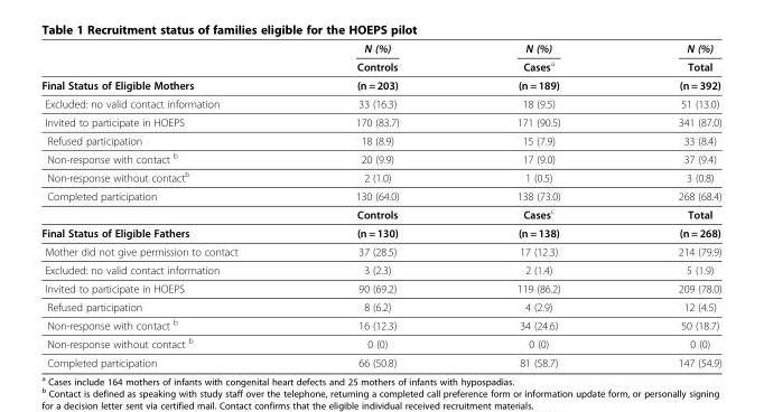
<table><thead><tr><td rowspan="2"></td><td rowspan="2">N (%) Controls</td><td rowspan="2">N (%) Cases<sup>a</sup></td><td rowspan="2">N (%) Total</td></tr><tr></tr></thead><tbody><tr><td>Final Status of Eligible Mothers</td><td>(n = 203)</td><td>(n = 189)</td><td>(n = 392)</td></tr><tr><td>Excluded: no valid contact information</td><td>33 (16.3)</td><td>18 (9.5)</td><td>51 (13.0)</td></tr><tr><td>Invited to participate in HOEPS</td><td>170 (83.7)</td><td>171 (90.5)</td><td>341 (87.0)</td></tr><tr><td>Refused participation</td><td>18 (8.9)</td><td>15 (7.9)</td><td>33 (8.4)</td></tr><tr><td>Non-response with contact <sup>b</sup></td><td>20 (9.9)</td><td>17 (9.0)</td><td>37 (9.4)</td></tr><tr><td>Non-response without contact<sup>b</sup></td><td>2 (1.0)</td><td>1 (0.5)</td><td>3 (0.8)</td></tr><tr><td rowspan="2">Completed participation</td><td>130 (64.0)</td><td>138 (73.0)</td><td>268 (68.4)</td></tr><tr><td>Controls</td><td>Cases<sup>c</sup></td><td>Total</td></tr><tr><td>Final Status of Eligible Fathers</td><td>(n = 130)</td><td>(n = 138)</td><td>(n = 268)</td></tr><tr><td>Mother did not give permission to contact</td><td>37 (28.5)</td><td>17 (12.3)</td><td>214 (79.9)</td></tr><tr><td>Excluded: no valid contact information</td><td>3 (2.3)</td><td>2 (1.4)</td><td>5 (1.9)</td></tr><tr><td>Invited to participate in HOEPS</td><td>90 (69.2)</td><td>119 (86.2)</td><td>209 (78.0)</td></tr><tr><td>Refused participation</td><td>8 (6.2)</td><td>4 (2.9)</td><td>12 (4.5)</td></tr><tr><td>Non-response with contact <sup>b</sup></td><td>16 (12.3)</td><td>34 (24.6)</td><td>50 (18.7)</td></tr><tr><td>Non-response without contact <sup>b</sup></td><td>0 (0)</td><td>0 (0)</td><td>0 (0)</td></tr><tr><td>Completed participation</td><td>66 (50.8)</td><td>81 (58.7)</td><td>147 (54.9)</td></tr></tbody></table>